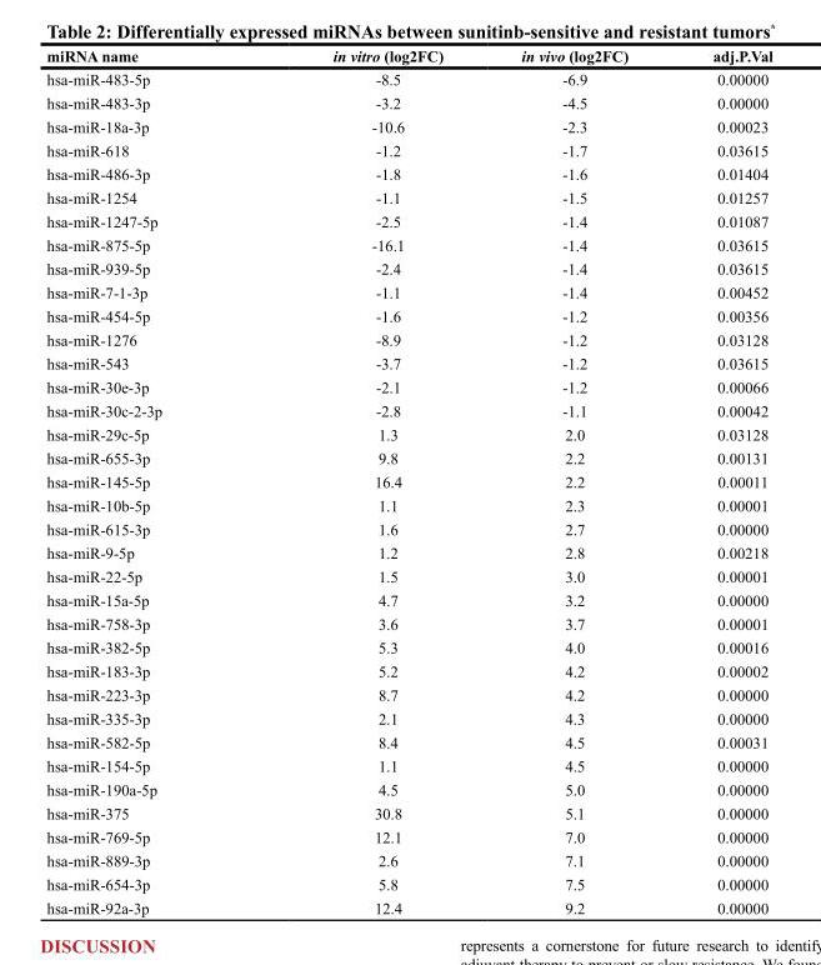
<table><thead><tr><td>miRNA name</td><td>in vitro (log2FC)</td><td>in vivo (log2FC)</td><td>adj.P.Val</td></tr></thead><tbody><tr><td>hsa-miR-483-5p</td><td>-8.5</td><td>-6.9</td><td>0.00000</td></tr><tr><td>hsa-miR-483-3p</td><td>-3.2</td><td>-4.5</td><td>0.00000</td></tr><tr><td>hsa-miR-18a-3p</td><td>-10.6</td><td>-2.3</td><td>0.00023</td></tr><tr><td>hsa-miR-618</td><td>-1.2</td><td>-1.7</td><td>0.03615</td></tr><tr><td>hsa-miR-486-3p</td><td>-1.8</td><td>-1.6</td><td>0.01404</td></tr><tr><td>hsa-miR-1254</td><td>-1.1</td><td>-1.5</td><td>0.01257</td></tr><tr><td>hsa-miR-1247-5p</td><td>-2.5</td><td>-1.4</td><td>0.01087</td></tr><tr><td>hsa-miR-875-5p</td><td>-16.1</td><td>-1.4</td><td>0.03615</td></tr><tr><td>hsa-miR-939-5p</td><td>-2.4</td><td>-1.4</td><td>0.03615</td></tr><tr><td>hsa-miR-7-1-3p</td><td>-1.1</td><td>-1.4</td><td>0.00452</td></tr><tr><td>hsa-miR-454-5p</td><td>-1.6</td><td>-1.2</td><td>0.00356</td></tr><tr><td>hsa-miR-1276</td><td>-8.9</td><td>-1.2</td><td>0.03128</td></tr><tr><td>hsa-miR-543</td><td>-3.7</td><td>-1.2</td><td>0.03615</td></tr><tr><td>hsa-miR-30e-3p</td><td>-2.1</td><td>-1.2</td><td>0.00066</td></tr><tr><td>hsa-miR-30c-2-3p</td><td>-2.8</td><td>-1.1</td><td>0.00042</td></tr><tr><td>hsa-miR-29c-5p</td><td>1.3</td><td>2.0</td><td>0.03128</td></tr><tr><td>hsa-miR-655-3p</td><td>9.8</td><td>2.2</td><td>0.00131</td></tr><tr><td>hsa-miR-145-5p</td><td>16.4</td><td>2.2</td><td>0.00011</td></tr><tr><td>hsa-miR-10b-5p</td><td>1.1</td><td>2.3</td><td>0.00001</td></tr><tr><td>hsa-miR-615-3p</td><td>1.6</td><td>2.7</td><td>0.00000</td></tr><tr><td>hsa-miR-9-5p</td><td>1.2</td><td>2.8</td><td>0.00218</td></tr><tr><td>hsa-miR-22-5p</td><td>1.5</td><td>3.0</td><td>0.00001</td></tr><tr><td>hsa-miR-15a-5p</td><td>4.7</td><td>3.2</td><td>0.00000</td></tr><tr><td>hsa-miR-758-3p</td><td>3.6</td><td>3.7</td><td>0.00001</td></tr><tr><td>hsa-miR-382-5p</td><td>5.3</td><td>4.0</td><td>0.00016</td></tr><tr><td>hsa-miR-183-3p</td><td>5.2</td><td>4.2</td><td>0.00002</td></tr><tr><td>hsa-miR-223-3p</td><td>8.7</td><td>4.2</td><td>0.00000</td></tr><tr><td>hsa-miR-335-3p</td><td>2.1</td><td>4.3</td><td>0.00000</td></tr><tr><td>hsa-miR-582-5p</td><td>8.4</td><td>4.5</td><td>0.00031</td></tr><tr><td>hsa-miR-154-5p</td><td>1.1</td><td>4.5</td><td>0.00000</td></tr><tr><td>hsa-miR-190a-5p</td><td>4.5</td><td>5.0</td><td>0.00000</td></tr><tr><td>hsa-miR-375</td><td>30.8</td><td>5.1</td><td>0.00000</td></tr><tr><td>hsa-miR-769-5p</td><td>12.1</td><td>7.0</td><td>0.00000</td></tr><tr><td>hsa-miR-889-3p</td><td>2.6</td><td>7.1</td><td>0.00000</td></tr><tr><td>hsa-miR-654-3p</td><td>5.8</td><td>7.5</td><td>0.00000</td></tr><tr><td>hsa-miR-92a-3p</td><td>12.4</td><td>9.2</td><td>0.00000</td></tr></tbody></table>